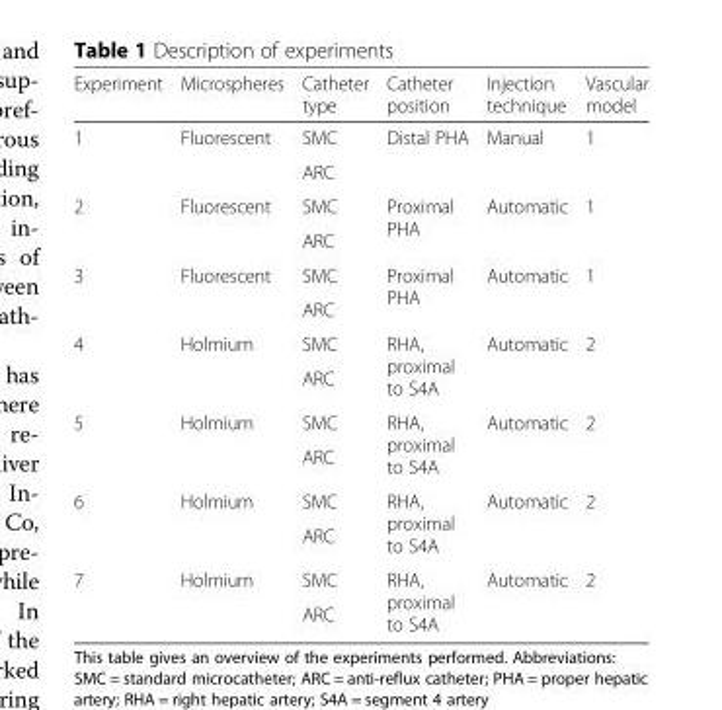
<table><thead><tr><td>Experiment</td><td>Microspheres</td><td>Catheter type</td><td>Catheter position</td><td>Injection technique</td><td>Vascular model</td></tr></thead><tbody><tr><td rowspan="2">1</td><td rowspan="2">Fluorescent</td><td>SMC</td><td rowspan="2">Distal PHA</td><td rowspan="2">Manual</td><td rowspan="2">1</td></tr><tr><td>ARC</td></tr><tr><td rowspan="2">2</td><td rowspan="2">Fluorescent</td><td>SMC</td><td rowspan="2">Proximal PHA</td><td rowspan="2">Automatic</td><td rowspan="2">1</td></tr><tr><td>ARC</td></tr><tr><td rowspan="2">3</td><td rowspan="2">Fluorescent</td><td>SMC</td><td rowspan="2">Proximal PHA</td><td rowspan="2">Automatic</td><td rowspan="2">1</td></tr><tr><td>ARC</td></tr><tr><td rowspan="2">4</td><td rowspan="2">Holmium</td><td>SMC</td><td rowspan="2">RHA, proximal to S4A</td><td rowspan="2">Automatic</td><td rowspan="2">2</td></tr><tr><td>ARC</td></tr><tr><td rowspan="2">5</td><td rowspan="2">Holmium</td><td>SMC</td><td rowspan="2">RHA, proximal to S4A</td><td rowspan="2">Automatic</td><td rowspan="2">2</td></tr><tr><td>ARC</td></tr><tr><td rowspan="2">6</td><td rowspan="2">Holmium</td><td>SMC</td><td rowspan="2">RHA, proximal to S4A</td><td rowspan="2">Automatic</td><td rowspan="2">2</td></tr><tr><td>ARC</td></tr><tr><td rowspan="2">7</td><td rowspan="2">Holmium</td><td>SMC</td><td rowspan="2">RHA, proximal to S4A</td><td rowspan="2">Automatic</td><td rowspan="2">2</td></tr><tr><td>ARC</td></tr></tbody></table>